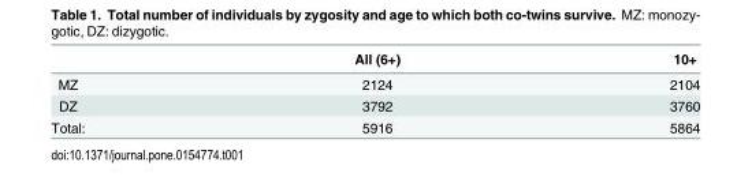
<table><thead><tr><td></td><td>All (6+)</td><td>10+</td></tr></thead><tbody><tr><td>MZ</td><td>2124</td><td>2104</td></tr><tr><td>DZ</td><td>3792</td><td>3760</td></tr><tr><td>Total:</td><td>5916</td><td>5864</td></tr></tbody></table>